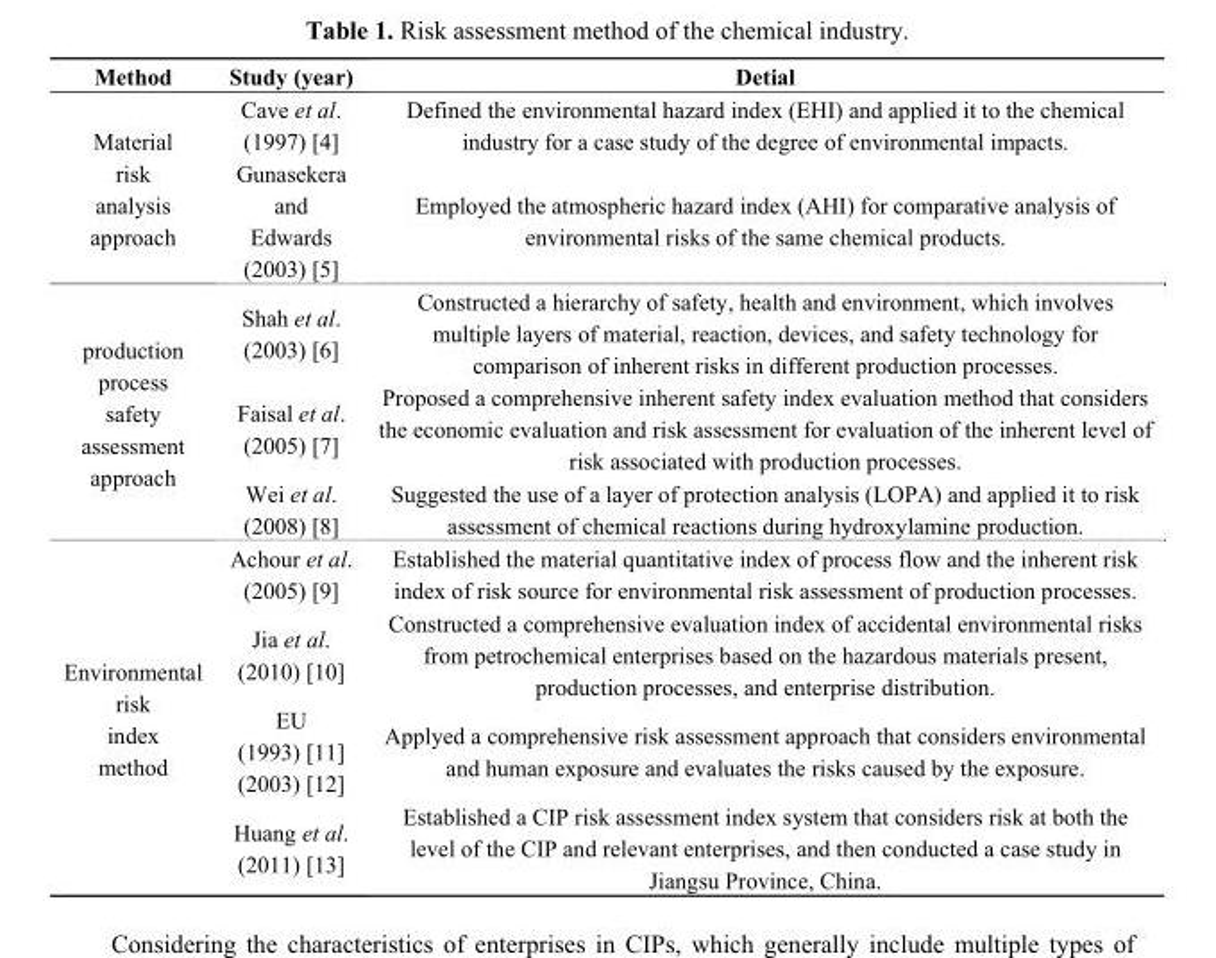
<table><thead><tr><td>Method</td><td>Study (year)</td><td>Detial</td></tr></thead><tbody><tr><td rowspan="2">Material risk analysis approach</td><td>Cave et al. (1997) [4]</td><td>Defined the environmental hazard index (EHI) and applied it to the chemical industry for a case study of the degree of environmental impacts.</td></tr><tr><td>Gunasekera and Edwards (2003) [5]</td><td>Employed the atmospheric hazard index (AHI) for comparative analysis of environmental risks of the same chemical products.</td></tr><tr><td rowspan="3">production process safety assessment approach</td><td>Shah et al. (2003) [6]</td><td>Constructed a hierarchy of safety, health and environment, which involves multiple layers of material, reaction, devices, and safety technology for comparison of inherent risks in different production processes.</td></tr><tr><td>Faisal et al. (2005) [7]</td><td>Proposed a comprehensive inherent safety index evaluation method that considers the economic evaluation and risk assessment for evaluation of the inherent level of risk associated with production processes.</td></tr><tr><td>Wei et al. (2008) [8]</td><td>Suggested the use of a layer of protection analysis (LOPA) and applied it to risk assessment of chemical reactions during hydroxylamine production.</td></tr><tr><td rowspan="4">Environmental risk index method</td><td>Achour et al. (2005) [9]</td><td>Established the material quantitative index of process flow and the inherent risk index of risk source for environmental risk assessment of production processes.</td></tr><tr><td>Jia et al. (2010) [10]</td><td>Constructed a comprehensive evaluation index of accidental environmental risks from petrochemical enterprises based on the hazardous materials present, production processes, and enterprise distribution.</td></tr><tr><td>EU (1993) [11] (2003) [12]</td><td>Applyed a comprehensive risk assessment approach that considers environmental and human exposure and evaluates the risks caused by the exposure.</td></tr><tr><td>Huang et al. (2011) [13]</td><td>Established a CIP risk assessment index system that considers risk at both the level of the CIP and relevant enterprises, and then conducted a case study in Jiangsu Province, China.</td></tr></tbody></table>